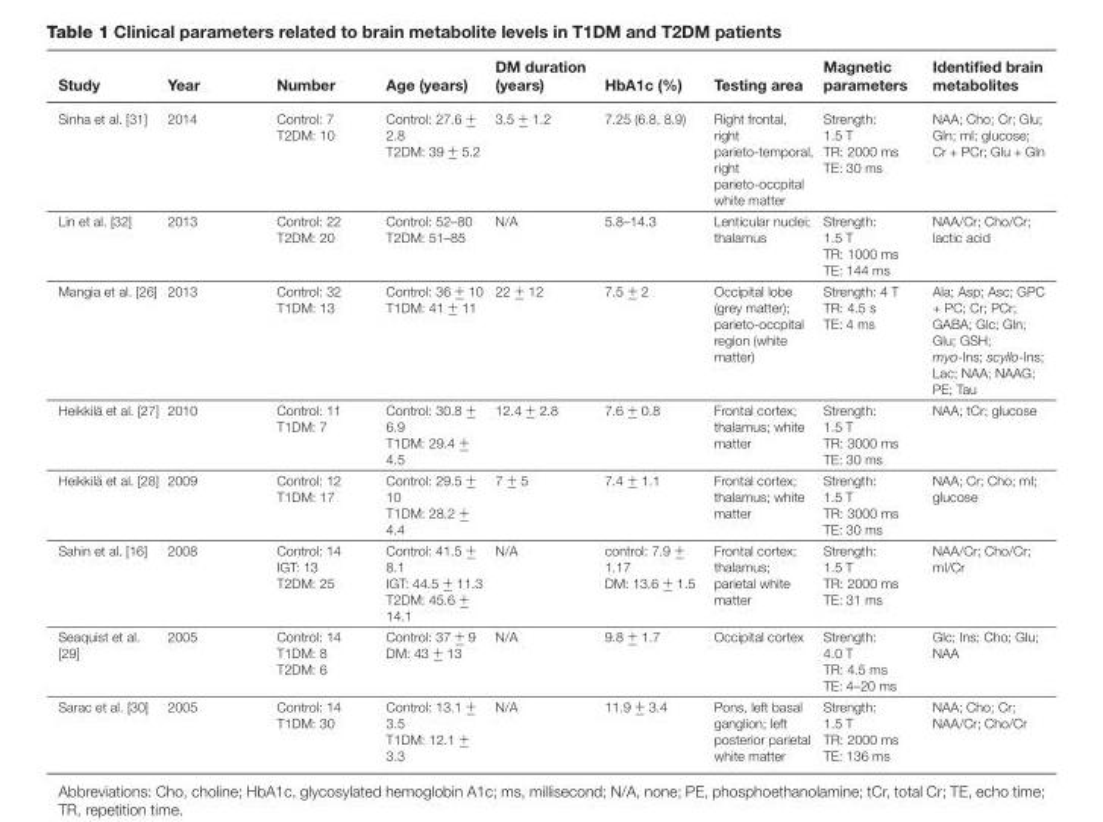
<table><thead><tr><td>Study</td><td>Year</td><td>Number</td><td>Age (years)</td><td>DM duration (years)</td><td>HbA1c (%)</td><td>Testing area</td><td>Magnetic parameters</td><td>Identified brain metabolites</td></tr></thead><tbody><tr><td>Sinha et al. [31]</td><td>2014</td><td>Control: 7 T2DM: 10</td><td>Control: 27.6 +− 2.8 T2DM: 39 +− 5.2</td><td>3.5 +− 1.2</td><td>7.25 (6.8, 8.9)</td><td>Right frontal, right parieto-temporal, right parieto-occpital white matter</td><td>Strength: 1.5 T TR: 2000 ms TE: 30 ms</td><td>NAA; Cho; Cr; Glu; Gln; mI; glucose; Cr + PCr; Glu + Gln</td></tr><tr><td>Lin et al. [32]</td><td>2013</td><td>Control: 22 T2DM: 20</td><td>Control: 52–80 T2DM: 51–85</td><td>N/A</td><td>5.8–14.3</td><td>Lenticular nuclei; thalamus</td><td>Strength: 1.5 T TR: 1000 ms TE: 144 ms</td><td>NAA/Cr; Cho/Cr; lactic acid</td></tr><tr><td>Mangia et al. [26]</td><td>2013</td><td>Control: 32 T1DM: 13</td><td>Control: 36 +− 10 T1DM: 41 +− 11</td><td>22 +− 12</td><td>7.5 +− 2</td><td>Occipital lobe (grey matter); parieto-occpital region (white matter)</td><td>Strength: 4 T TR: 4.5 s TE: 4 ms</td><td>Ala; Asp; Asc; GPC + PC; Cr; PCr; GABA; Glc; Gln; Glu; GSH; myo-Ins; scyllo-Ins; Lac; NAA; NAAG; PE; Tau</td></tr><tr><td>Heikkil ¨a et al. [27]</td><td>2010</td><td>Control: 11 T1DM: 7</td><td>Control: 30.8 +− 6.9 T1DM: 29.4 +− 4.5</td><td>12.4 +− 2.8</td><td>7.6 +− 0.8</td><td>Frontal cortex; thalamus; white matter</td><td>Strength: 1.5 T TR: 3000 ms TE: 30 ms</td><td>NAA; tCr; glucose</td></tr><tr><td>Heikkil ¨a et al. [28]</td><td>2009</td><td>Control: 12 T1DM: 17</td><td>Control: 29.5 +− 10 T1DM: 28.2 +− 4.4</td><td>7 +− 5</td><td>7.4 +− 1.1</td><td>Frontal cortex; thalamus; white matter</td><td>Strength: 1.5 T TR: 3000 ms TE: 30 ms</td><td>NAA; Cr; Cho; mI; glucose</td></tr><tr><td>Sahin et al. [16]</td><td>2008</td><td>Control: 14 IGT: 13 T2DM: 25</td><td>Control: 41.5 +− 8.1 IGT: 44.5 +− 11.3 T2DM: 45.6 +− 14.1</td><td>N/A</td><td>control: 7.9 +− 1.17 DM: 13.6 +− 1.5</td><td>Frontal cortex; thalamus; parietal white matter</td><td>Strength: 1.5 T TR: 2000 ms TE: 31 ms</td><td>NAA/Cr; Cho/Cr; mI/Cr</td></tr><tr><td>Seaquist et al. [29]</td><td>2005</td><td>Control: 14 T1DM: 8 T2DM: 6</td><td>Control: 37 +− 9 DM: 43 +− 13</td><td>N/A</td><td>9.8 +− 1.7</td><td>Occipital cortex</td><td>Strength: 4.0 T TR: 4.5 ms TE: 4–20 ms</td><td>Glc; Ins; Cho; Glu; NAA</td></tr><tr><td>Sarac et al. [30]</td><td>2005</td><td>Control: 14 T1DM: 30</td><td>Control: 13.1 +− 3.5 T1DM: 12.1 +− 3.3</td><td>N/A</td><td>11.9 +− 3.4</td><td>Pons, left basal ganglion; left posterior parietal white matter</td><td>Strength: 1.5 T TR: 2000 ms TE: 136 ms</td><td>NAA; Cho; Cr; NAA/Cr; Cho/Cr</td></tr></tbody></table>